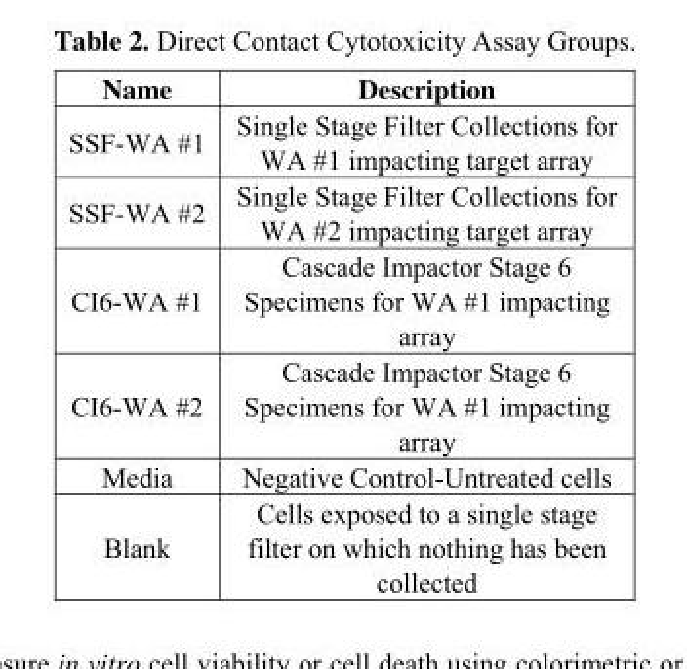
<table><thead><tr><td>Name</td><td>Description</td></tr></thead><tbody><tr><td>SSF-WA #1</td><td>Single Stage Filter Collections for WA #1 impacting target array</td></tr><tr><td>SSF-WA #2</td><td>Single Stage Filter Collections for WA #2 impacting target array</td></tr><tr><td>CI6-WA #1</td><td>Cascade Impactor Stage 6 Specimens for WA #1 impacting array</td></tr><tr><td>CI6-WA #2</td><td>Cascade Impactor Stage 6 Specimens for WA #1 impacting array</td></tr><tr><td>Media</td><td>Negative Control-Untreated cells</td></tr><tr><td>Blank</td><td>Cells exposed to a single stage filter on which nothing has been collected</td></tr></tbody></table>